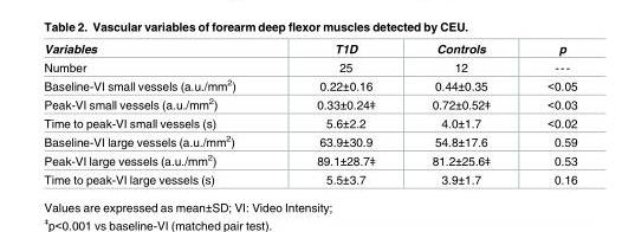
<table><thead><tr><td>Variables</td><td>T1D</td><td>Controls</td><td>p</td></tr></thead><tbody><tr><td>Number</td><td>25</td><td>12</td><td>---</td></tr><tr><td>Baseline-VI small vessels (a.u./mm<sup>2</sup>)</td><td>0.22±0.16</td><td>0.44±0.35</td><td>&lt;0.05</td></tr><tr><td>Peak-VI small vessels (a.u./mm<sup>2</sup>)</td><td>0.33±0.24ǂ</td><td>0.72±0.52ǂ</td><td>&lt;0.03</td></tr><tr><td>Time to peak-VI small vessels (s)</td><td>5.6±2.2</td><td>4.0±1.7</td><td>&lt;0.02</td></tr><tr><td>Baseline-VI large vessels (a.u./mm<sup>2</sup>)</td><td>63.9±30.9</td><td>54.8±17.6</td><td>0.59</td></tr><tr><td>Peak-VI large vessels (a.u./mm<sup>2</sup>)</td><td>89.1±28.7ǂ</td><td>81.2±25.6ǂ</td><td>0.53</td></tr><tr><td>Time to peak-VI large vessels (s)</td><td>5.5±3.7</td><td>3.9±1.7</td><td>0.16</td></tr></tbody></table>